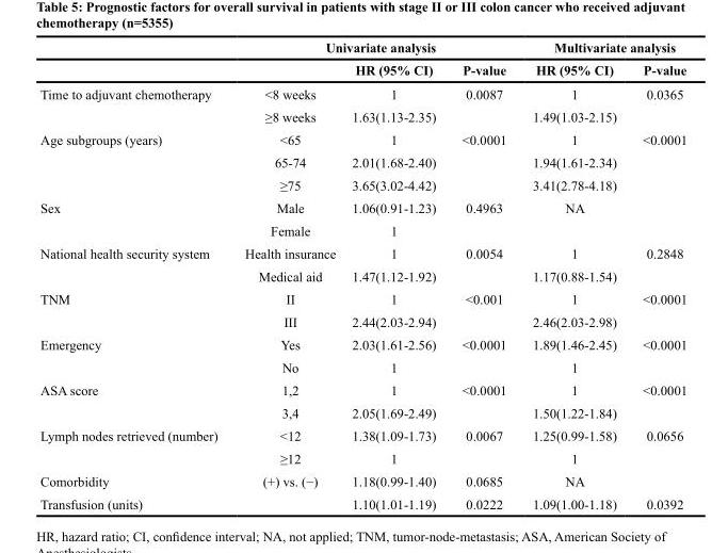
<table><thead><tr><td rowspan="2"></td><td colspan="3">Univariate analysis</td><td colspan="2">Multivariate analysis</td></tr><tr><td></td><td>HR (95% CI)</td><td>P-value</td><td>HR (95% CI)</td><td>P-value</td></tr></thead><tbody><tr><td rowspan="2">Time to adjuvant chemotherapy</td><td>&lt;8 weeks</td><td>1</td><td>0.0087</td><td>1</td><td>0.0365</td></tr><tr><td>≥8 weeks</td><td>1.63(1.13-2.35)</td><td></td><td>1.49(1.03-2.15)</td><td></td></tr><tr><td rowspan="3">Age subgroups (years)</td><td>&lt;65</td><td>1</td><td>&lt;0.0001</td><td>1</td><td>&lt;0.0001</td></tr><tr><td>65-74</td><td>2.01(1.68-2.40)</td><td></td><td>1.94(1.61-2.34)</td><td></td></tr><tr><td>≥75</td><td>3.65(3.02-4.42)</td><td></td><td>3.41(2.78-4.18)</td><td></td></tr><tr><td rowspan="2">Sex</td><td>Male</td><td>1.06(0.91-1.23)</td><td>0.4963</td><td>NA</td><td></td></tr><tr><td>Female</td><td>1</td><td></td><td></td><td></td></tr><tr><td rowspan="2">National health security system</td><td>Health insurance</td><td>1</td><td>0.0054</td><td>1</td><td>0.2848</td></tr><tr><td>Medical aid</td><td>1.47(1.12-1.92)</td><td></td><td>1.17(0.88-1.54)</td><td></td></tr><tr><td rowspan="2">TNM</td><td>II</td><td>1</td><td>&lt;0.001</td><td>1</td><td>&lt;0.0001</td></tr><tr><td>III</td><td>2.44(2.03-2.94)</td><td></td><td>2.46(2.03-2.98)</td><td></td></tr><tr><td rowspan="2">Emergency</td><td>Yes</td><td>2.03(1.61-2.56)</td><td>&lt;0.0001</td><td>1.89(1.46-2.45)</td><td>&lt;0.0001</td></tr><tr><td>No</td><td>1</td><td></td><td>1</td><td></td></tr><tr><td rowspan="2">ASA score</td><td>1,2</td><td>1</td><td>&lt;0.0001</td><td>1</td><td>&lt;0.0001</td></tr><tr><td>3,4</td><td>2.05(1.69-2.49)</td><td></td><td>1.50(1.22-1.84)</td><td></td></tr><tr><td rowspan="2">Lymph nodes retrieved (number)</td><td>&lt;12</td><td>1.38(1.09-1.73)</td><td>0.0067</td><td>1.25(0.99-1.58)</td><td>0.0656</td></tr><tr><td>≥12</td><td>1</td><td></td><td>1</td><td></td></tr><tr><td>Comorbidity</td><td>(+) vs. (−)</td><td>1.18(0.99-1.40)</td><td>0.0685</td><td>NA</td><td></td></tr><tr><td>Transfusion (units)</td><td></td><td>1.10(1.01-1.19)</td><td>0.0222</td><td>1.09(1.00-1.18)</td><td>0.0392</td></tr></tbody></table>